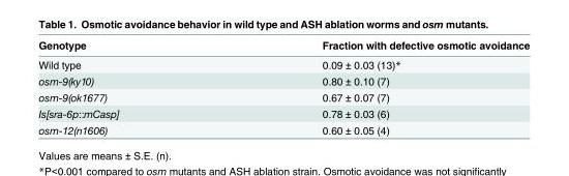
<table><thead><tr><td>Genotype</td><td>Fraction with defective osmotic avoidance</td></tr></thead><tbody><tr><td>Wild type</td><td>0.09 ± 0.03 (13)*</td></tr><tr><td>osm-9(ky10)</td><td>0.80 ± 0.10 (7)</td></tr><tr><td>osm-9(ok1677)</td><td>0.67 ± 0.07 (7)</td></tr><tr><td>Is[sra-6p::mCasp]</td><td>0.78 ± 0.03 (6)</td></tr><tr><td>osm-12(n1606)</td><td>0.60 ± 0.05 (4)</td></tr></tbody></table>